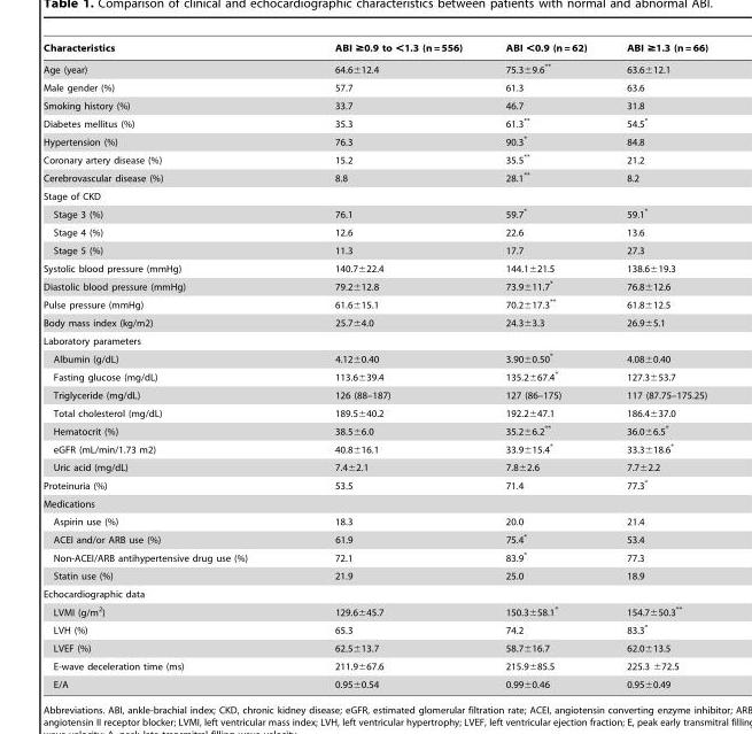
<table><thead><tr><td>Characteristics</td><td>ABI ≥0.9 to &lt;1.3 (n = 556)</td><td>ABI &lt;0.9 (n = 62)</td><td>ABI ≥1.3 (n = 66)</td></tr></thead><tbody><tr><td>Age (year)</td><td>64.6±12.4</td><td>75.3±9.6**</td><td>63.6±12.1</td></tr><tr><td>Male gender (%)</td><td>57.7</td><td>61.3</td><td>63.6</td></tr><tr><td>Smoking history (%)</td><td>33.7</td><td>46.7</td><td>31.8</td></tr><tr><td>Diabetes mellitus (%)</td><td>35.3</td><td>61.3**</td><td>54.5*</td></tr><tr><td>Hypertension (%)</td><td>76.3</td><td>90.3*</td><td>84.8</td></tr><tr><td>Coronary artery disease (%)</td><td>15.2</td><td>35.5**</td><td>21.2</td></tr><tr><td>Cerebrovascular disease (%)</td><td>8.8</td><td>28.1**</td><td>8.2</td></tr><tr><td colspan="4">Stage of CKD</td></tr><tr><td>Stage 3 (%)</td><td>76.1</td><td>59.7*</td><td>59.1*</td></tr><tr><td>Stage 4 (%)</td><td>12.6</td><td>22.6</td><td>13.6</td></tr><tr><td>Stage 5 (%)</td><td>11.3</td><td>17.7</td><td>27.3</td></tr><tr><td>Systolic blood pressure (mmHg)</td><td>140.7±22.4</td><td>144.1±21.5</td><td>138.6±19.3</td></tr><tr><td>Diastolic blood pressure (mmHg)</td><td>79.2±12.8</td><td>73.9±11.7*</td><td>76.8±12.6</td></tr><tr><td>Pulse pressure (mmHg)</td><td>61.6±15.1</td><td>70.2±17.3**</td><td>61.8±12.5</td></tr><tr><td>Body mass index (kg/m2)</td><td>25.7±4.0</td><td>24.3±3.3</td><td>26.9±5.1</td></tr><tr><td colspan="4">Laboratory parameters</td></tr><tr><td>Albumin (g/dL)</td><td>4.12±0.40</td><td>3.90±0.50*</td><td>4.08±0.40</td></tr><tr><td>Fasting glucose (mg/dL)</td><td>113.6±39.4</td><td>135.2±67.4*</td><td>127.3±53.7</td></tr><tr><td>Triglyceride (mg/dL)</td><td>126 (88–187)</td><td>127 (86–175)</td><td>117 (87.75–175.25)</td></tr><tr><td>Total cholesterol (mg/dL)</td><td>189.5±40.2</td><td>192.2±47.1</td><td>186.4±37.0</td></tr><tr><td>Hematocrit (%)</td><td>38.5±6.0</td><td>35.2±6.2**</td><td>36.0±6.5*</td></tr><tr><td>eGFR (mL/min/1.73 m2)</td><td>40.8±16.1</td><td>33.9±15.4*</td><td>33.3±18.6*</td></tr><tr><td>Uric acid (mg/dL)</td><td>7.4±2.1</td><td>7.8±2.6</td><td>7.7±2.2</td></tr><tr><td>Proteinuria (%)</td><td>53.5</td><td>71.4</td><td>77.3*</td></tr><tr><td colspan="4">Medications</td></tr><tr><td>Aspirin use (%)</td><td>18.3</td><td>20.0</td><td>21.4</td></tr><tr><td>ACEI and/or ARB use (%)</td><td>61.9</td><td>75.4*</td><td>53.4</td></tr><tr><td>Non-ACEI/ARB antihypertensive drug use (%)</td><td>72.1</td><td>83.9*</td><td>77.3</td></tr><tr><td>Statin use (%)</td><td>21.9</td><td>25.0</td><td>18.9</td></tr><tr><td colspan="4">Echocardiographic data</td></tr><tr><td>LVMI (g/m<sup>2</sup>)</td><td>129.6±45.7</td><td>150.3±58.1*</td><td>154.7±50.3**</td></tr><tr><td>LVH (%)</td><td>65.3</td><td>74.2</td><td>83.3*</td></tr><tr><td>LVEF (%)</td><td>62.5±13.7</td><td>58.7±16.7</td><td>62.0±13.5</td></tr><tr><td>E-wave deceleration time (ms)</td><td>211.9±67.6</td><td>215.9±85.5</td><td>225.3 ±72.5</td></tr><tr><td>E/A</td><td>0.95±0.54</td><td>0.99±0.46</td><td>0.95±0.49</td></tr></tbody></table>